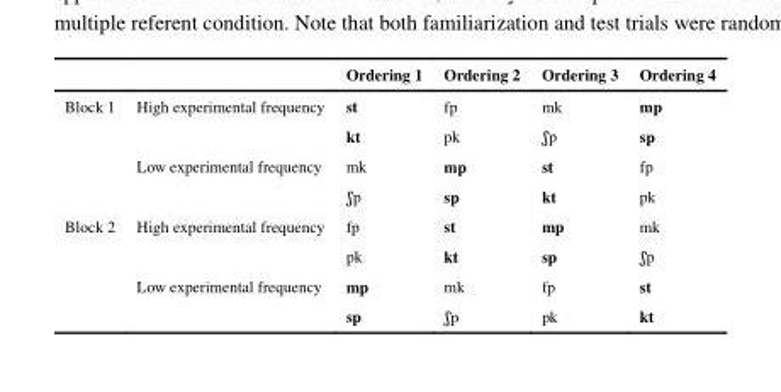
<table><thead><tr><td></td><td></td><td>Ordering 1</td><td>Ordering 2</td><td>Ordering 3</td><td>Ordering 4</td></tr></thead><tbody><tr><td rowspan="4">Block 1</td><td rowspan="2">High experimental frequency</td><td>st</td><td>fp</td><td>mk</td><td>mp</td></tr><tr><td>kt</td><td>pk</td><td>ʃp</td><td>sp</td></tr><tr><td rowspan="2">Low experimental frequency</td><td>mk</td><td>mp</td><td>st</td><td>fp</td></tr><tr><td>ʃp</td><td>sp</td><td>kt</td><td>pk</td></tr><tr><td rowspan="4">Block 2</td><td rowspan="2">High experimental frequency</td><td>fp</td><td>st</td><td>mp</td><td>mk</td></tr><tr><td>pk</td><td>kt</td><td>sp</td><td>ʃp</td></tr><tr><td rowspan="2">Low experimental frequency</td><td>mp</td><td>mk</td><td>fp</td><td>st</td></tr><tr><td>sp</td><td>ʃp</td><td>pk</td><td>kt</td></tr></tbody></table>